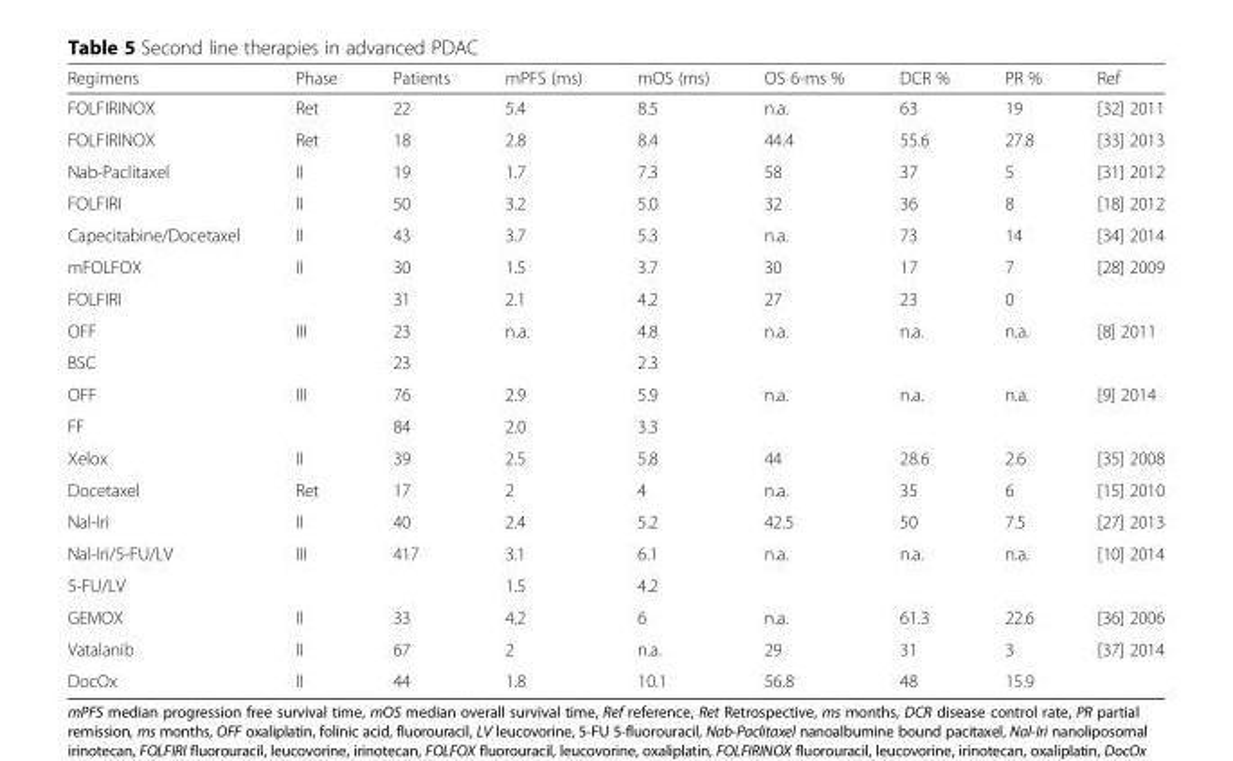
<table><thead><tr><td>Regimens</td><td>Phase</td><td>Patients</td><td>mPFS (ms)</td><td>mOS (ms)</td><td>OS 6-ms %</td><td>DCR %</td><td>PR %</td><td>Ref</td></tr></thead><tbody><tr><td>FOLFIRINOX</td><td>Ret</td><td>22</td><td>5.4</td><td>8.5</td><td>n.a.</td><td>63</td><td>19</td><td>[32] 2011</td></tr><tr><td>FOLFIRINOX</td><td>Ret</td><td>18</td><td>2.8</td><td>8.4</td><td>44.4</td><td>55.6</td><td>27.8</td><td>[33] 2013</td></tr><tr><td>Nab-Paclitaxel</td><td>II</td><td>19</td><td>1.7</td><td>7.3</td><td>58</td><td>37</td><td>5</td><td>[31] 2012</td></tr><tr><td>FOLFIRI</td><td>II</td><td>50</td><td>3.2</td><td>5.0</td><td>32</td><td>36</td><td>8</td><td>[18] 2012</td></tr><tr><td>Capecitabine/Docetaxel</td><td>II</td><td>43</td><td>3.7</td><td>5.3</td><td>n.a.</td><td>73</td><td>14</td><td>[34] 2014</td></tr><tr><td>mFOLFOX</td><td>II</td><td>30</td><td>1.5</td><td>3.7</td><td>30</td><td>17</td><td>7</td><td rowspan="2">[28] 2009</td></tr><tr><td>FOLFIRI</td><td></td><td>31</td><td>2.1</td><td>4.2</td><td>27</td><td>23</td><td>0</td></tr><tr><td>OFF</td><td rowspan="2">III</td><td>23</td><td rowspan="2">n.a.</td><td>4.8</td><td rowspan="2">n.a.</td><td rowspan="2">n.a.</td><td rowspan="2">n.a.</td><td rowspan="2">[8] 2011</td></tr><tr><td>BSC</td><td>23</td><td>2.3</td></tr><tr><td>OFF</td><td rowspan="2">III</td><td>76</td><td>2.9</td><td>5.9</td><td rowspan="2">n.a.</td><td rowspan="2">n.a.</td><td rowspan="2">n.a.</td><td rowspan="2">[9] 2014</td></tr><tr><td>FF</td><td>84</td><td>2.0</td><td>3.3</td></tr><tr><td>Xelox</td><td>II</td><td>39</td><td>2.5</td><td>5.8</td><td>44</td><td>28.6</td><td>2.6</td><td>[35] 2008</td></tr><tr><td>Docetaxel</td><td>Ret</td><td>17</td><td>2</td><td>4</td><td>n.a.</td><td>35</td><td>6</td><td>[15] 2010</td></tr><tr><td>Nal-Iri</td><td>II</td><td>40</td><td>2.4</td><td>5.2</td><td>42.5</td><td>50</td><td>7.5</td><td>[27] 2013</td></tr><tr><td>Nal-Iri/5-FU/LV</td><td rowspan="2">III</td><td rowspan="2">417</td><td>3.1</td><td>6.1</td><td rowspan="2">n.a.</td><td rowspan="2">n.a.</td><td rowspan="2">n.a.</td><td rowspan="2">[10] 2014</td></tr><tr><td>5-FU/LV</td><td>1.5</td><td>4.2</td></tr><tr><td>GEMOX</td><td>II</td><td>33</td><td>4.2</td><td>6</td><td>n.a.</td><td>61.3</td><td>22.6</td><td>[36] 2006</td></tr><tr><td>Vatalanib</td><td>II</td><td>67</td><td>2</td><td>n.a.</td><td>29</td><td>31</td><td>3</td><td>[37] 2014</td></tr><tr><td>DocOx</td><td>II</td><td>44</td><td>1.8</td><td>10.1</td><td>56.8</td><td>48</td><td>15.9</td><td></td></tr></tbody></table>